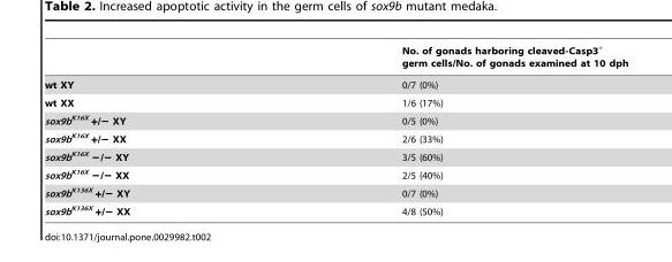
<table><thead><tr><td></td><td>No. of gonads harboring cleaved-Casp3<sup>+</sup> germ cells/No. of gonads examined at 10 dph</td></tr></thead><tbody><tr><td>wt XY</td><td>0/7 (0%)</td></tr><tr><td>wt XX</td><td>1/6 (17%)</td></tr><tr><td>sox9b<sup>K16X</sup> +/− XY</td><td>0/5 (0%)</td></tr><tr><td>sox9b<sup>K16X</sup> +/− XX</td><td>2/6 (33%)</td></tr><tr><td>sox9b<sup>K16X</sup> −/− XY</td><td>3/5 (60%)</td></tr><tr><td>sox9b<sup>K16X</sup> −/− XX</td><td>2/5 (40%)</td></tr><tr><td>sox9b<sup>K136X</sup> +/− XY</td><td>0/7 (0%)</td></tr><tr><td>sox9b<sup>K136X</sup> +/− XX</td><td>4/8 (50%)</td></tr></tbody></table>